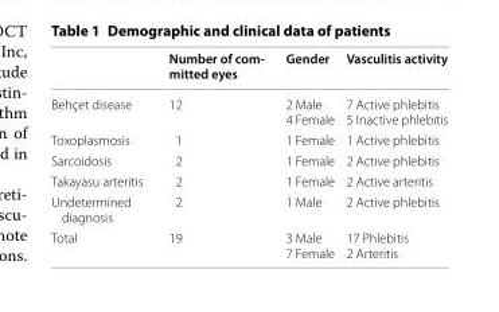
<table><thead><tr><td></td><td>Number of com- mitted eyes</td><td>Gender</td><td>Vasculitis activity</td></tr></thead><tbody><tr><td>Behçet disease</td><td>12</td><td>2 Male 4 Female</td><td>7 Active phlebitis 5 Inactive phlebitis</td></tr><tr><td>Toxoplasmosis</td><td>1</td><td>1 Female</td><td>1 Active phlebitis</td></tr><tr><td>Sarcoidosis</td><td>2</td><td>1 Female</td><td>2 Active phlebitis</td></tr><tr><td>Takayasu arteritis</td><td>2</td><td>1 Female</td><td>2 Active arteritis</td></tr><tr><td>Undetermined diagnosis</td><td>2</td><td>1 Male</td><td>2 Active phlebitis</td></tr><tr><td>Total</td><td>19</td><td>3 Male 7 Female</td><td>17 Phlebitis 2 Arteritis</td></tr></tbody></table>